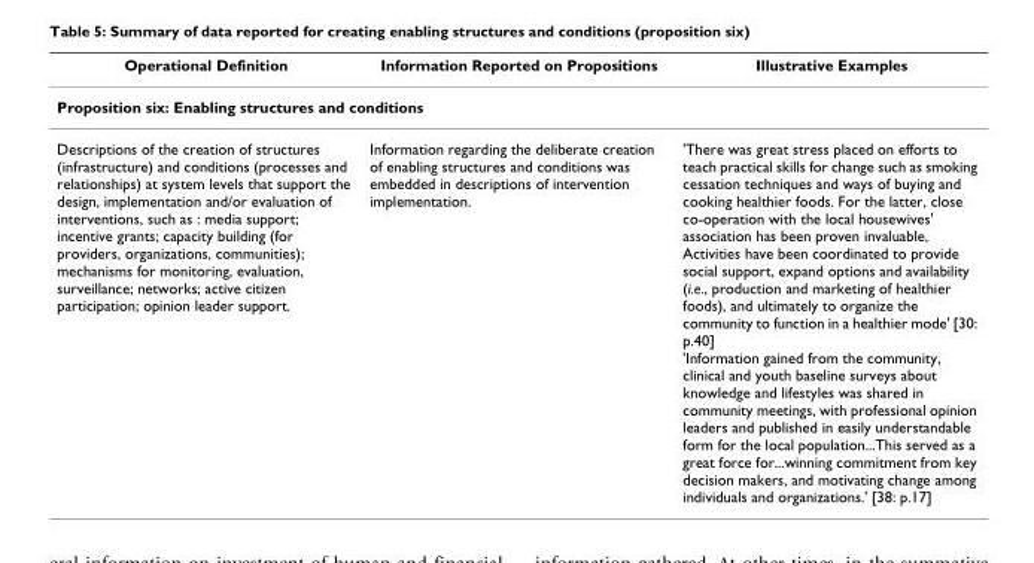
<table><thead><tr><td>Operational Definition</td><td>Information Reported on Propositions</td><td>Illustrative Examples</td></tr></thead><tbody><tr><td colspan="3">Proposition six: Enabling structures and conditions</td></tr><tr><td>Descriptions of the creation of structures (infrastructure) and conditions (processes and relationships) at system levels that support the design, implementation and/or evaluation of interventions, such as : media support; incentive grants; capacity building (for providers, organizations, communities); mechanisms for monitoring, evaluation, surveillance; networks; active citizen participation; opinion leader support.</td><td>Information regarding the deliberate creation of enabling structures and conditions was embedded in descriptions of intervention implementation.</td><td>&#x27;There was great stress placed on efforts to teach practical skills for change such as smoking cessation techniques and ways of buying and cooking healthier foods. For the latter, close co-operation with the local housewives&#x27; association has been proven invaluable, Activities have been coordinated to provide social support, expand options and availability (i.e., production and marketing of healthier foods), and ultimately to organize the community to function in a healthier mode&#x27; [30: p.40] &#x27;Information gained from the community, clinical and youth baseline surveys about knowledge and lifestyles was shared in community meetings, with professional opinion leaders and published in easily understandable form for the local population...This served as a great force for...winning commitment from key decision makers, and motivating change among individuals and organizations.&#x27; [38: p.17]</td></tr></tbody></table>